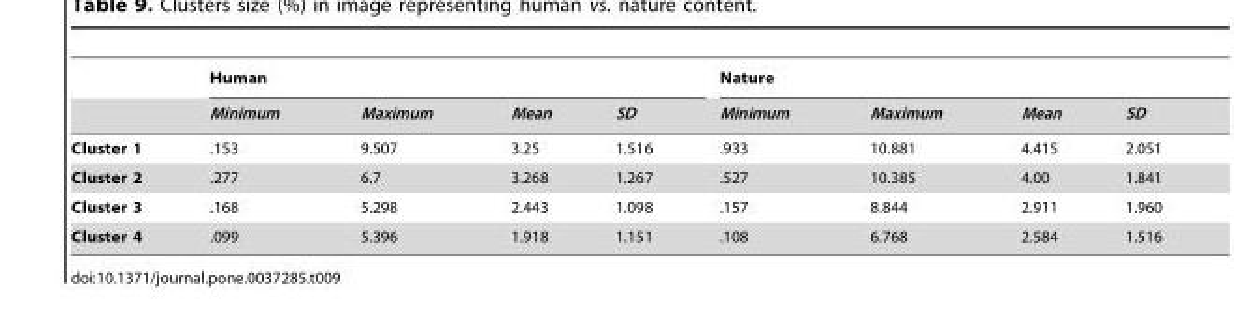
<table><thead><tr><td rowspan="2"></td><td colspan="4">Human</td><td colspan="4">Nature</td></tr><tr><td>Minimum</td><td>Maximum</td><td>Mean</td><td>SD</td><td>Minimum</td><td>Maximum</td><td>Mean</td><td>SD</td></tr></thead><tbody><tr><td>Cluster 1</td><td>.153</td><td>9.507</td><td>3.25</td><td>1.516</td><td>.933</td><td>10.881</td><td>4.415</td><td>2.051</td></tr><tr><td>Cluster 2</td><td>.277</td><td>6.7</td><td>3.268</td><td>1.267</td><td>.527</td><td>10.385</td><td>4.00</td><td>1.841</td></tr><tr><td>Cluster 3</td><td>.168</td><td>5.298</td><td>2.443</td><td>1.098</td><td>.157</td><td>8.844</td><td>2.911</td><td>1.960</td></tr><tr><td>Cluster 4</td><td>.099</td><td>5.396</td><td>1.918</td><td>1.151</td><td>.108</td><td>6.768</td><td>2.584</td><td>1.516</td></tr></tbody></table>